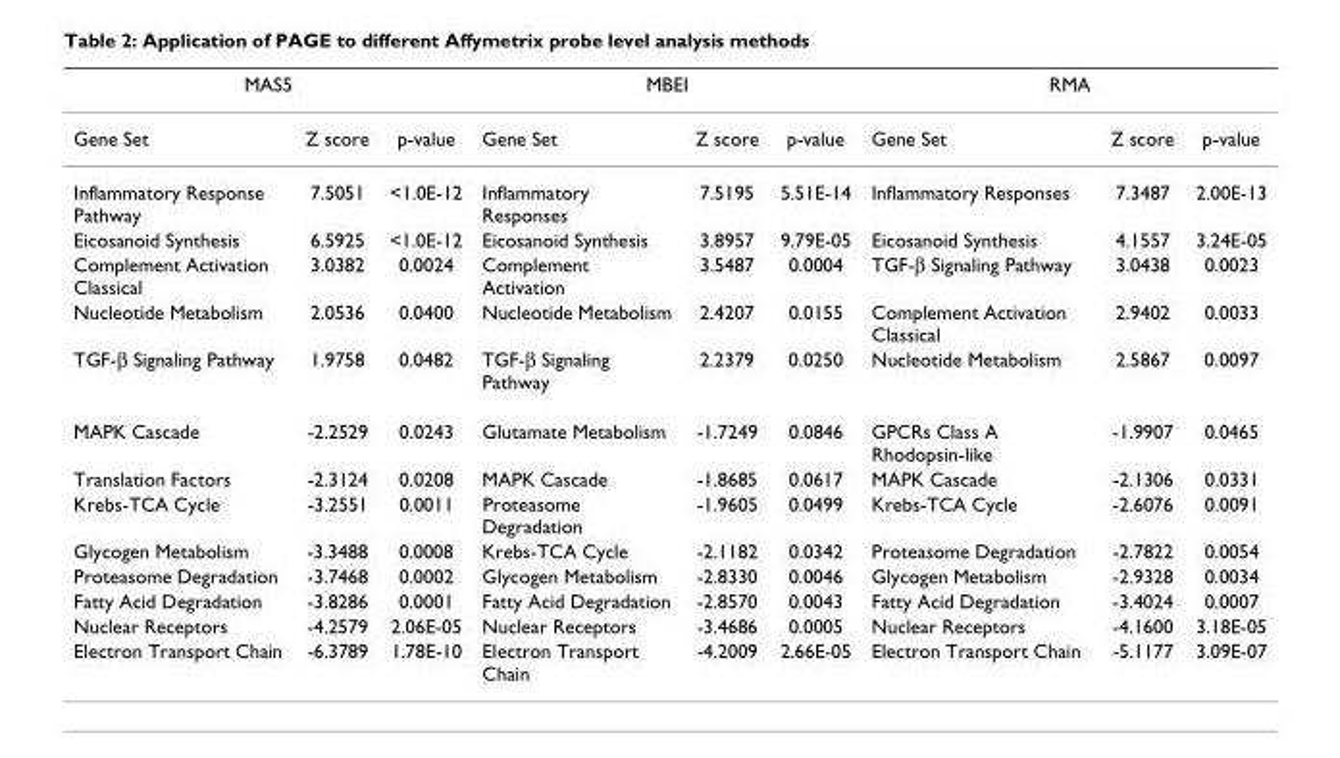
<table><thead><tr><td colspan="3">MAS5</td><td colspan="3">MBEI</td><td colspan="3">RMA</td></tr><tr><td>Gene Set</td><td>Z score</td><td>p-value</td><td>Gene Set</td><td>Z score</td><td>p-value</td><td>Gene Set</td><td>Z score</td><td>p-value</td></tr></thead><tbody><tr><td>Inflammatory Response Pathway</td><td>7.5051</td><td>&lt;1.0E-12</td><td>Inflammatory Responses</td><td>7.5195</td><td>5.51E-14</td><td>Inflammatory Responses</td><td>7.3487</td><td>2.00E-13</td></tr><tr><td>Eicosanoid Synthesis</td><td>6.5925</td><td>&lt;1.0E-12</td><td>Eicosanoid Synthesis</td><td>3.8957</td><td>9.79E-05</td><td>Eicosanoid Synthesis</td><td>4.1557</td><td>3.24E-05</td></tr><tr><td>Complement Activation Classical</td><td>3.0382</td><td>0.0024</td><td>Complement Activation</td><td>3.5487</td><td>0.0004</td><td>TGF-β Signaling Pathway</td><td>3.0438</td><td>0.0023</td></tr><tr><td>Nucleotide Metabolism</td><td>2.0536</td><td>0.0400</td><td>Nucleotide Metabolism</td><td>2.4207</td><td>0.0155</td><td>Complement Activation Classical</td><td>2.9402</td><td>0.0033</td></tr><tr><td>TGF-β Signaling Pathway</td><td>1.9758</td><td>0.0482</td><td>TGF-β Signaling Pathway</td><td>2.2379</td><td>0.0250</td><td>Nucleotide Metabolism</td><td>2.5867</td><td>0.0097</td></tr><tr><td>MAPK Cascade</td><td>-2.2529</td><td>0.0243</td><td>Glutamate Metabolism</td><td>-1.7249</td><td>0.0846</td><td>GPCRs Class A Rhodopsin-like</td><td>-1.9907</td><td>0.0465</td></tr><tr><td>Translation Factors</td><td>-2.3124</td><td>0.0208</td><td>MAPK Cascade</td><td>-1.8685</td><td>0.0617</td><td>MAPK Cascade</td><td>-2.1306</td><td>0.0331</td></tr><tr><td>Krebs-TCA Cycle</td><td>-3.2551</td><td>0.0011</td><td>Proteasome Degradation</td><td>-1.9605</td><td>0.0499</td><td>Krebs-TCA Cycle</td><td>-2.6076</td><td>0.0091</td></tr><tr><td>Glycogen Metabolism</td><td>-3.3488</td><td>0.0008</td><td>Krebs-TCA Cycle</td><td>-2.1182</td><td>0.0342</td><td>Proteasome Degradation</td><td>-2.7822</td><td>0.0054</td></tr><tr><td>Proteasome Degradation</td><td>-3.7468</td><td>0.0002</td><td>Glycogen Metabolism</td><td>-2.8330</td><td>0.0046</td><td>Glycogen Metabolism</td><td>-2.9328</td><td>0.0034</td></tr><tr><td>Fatty Acid Degradation</td><td>-3.8286</td><td>0.0001</td><td>Fatty Acid Degradation</td><td>-2.8570</td><td>0.0043</td><td>Fatty Acid Degradation</td><td>-3.4024</td><td>0.0007</td></tr><tr><td>Nuclear Receptors</td><td>-4.2579</td><td>2.06E-05</td><td>Nuclear Receptors</td><td>-3.4686</td><td>0.0005</td><td>Nuclear Receptors</td><td>-4.1600</td><td>3.18E-05</td></tr><tr><td>Electron Transport Chain</td><td>-6.3789</td><td>1.78E-10</td><td>Electron Transport Chain</td><td>-4.2009</td><td>2.66E-05</td><td>Electron Transport Chain</td><td>-5.1177</td><td>3.09E-07</td></tr></tbody></table>